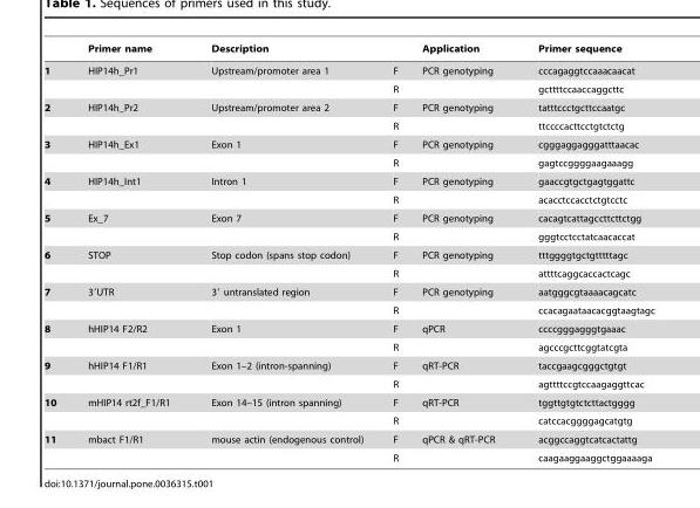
<table><thead><tr><td></td><td>Primer name</td><td>Description</td><td></td><td>Application</td><td>Primer sequence</td></tr></thead><tbody><tr><td rowspan="2">1</td><td>HIP14h_Pr1</td><td>Upstream/promoter area 1</td><td>F</td><td>PCR genotyping</td><td>cccagaggtccaaacaacat</td></tr><tr><td></td><td></td><td>R</td><td></td><td>gcttttccaaccaggcttc</td></tr><tr><td rowspan="2">2</td><td>HIP14h_Pr2</td><td>Upstream/promoter area 2</td><td>F</td><td>PCR genotyping</td><td>tatttccctgcttccaatgc</td></tr><tr><td></td><td></td><td>R</td><td></td><td>ttccccacttcctgtctctg</td></tr><tr><td rowspan="2">3</td><td>HIP14h_Ex1</td><td>Exon 1</td><td>F</td><td>PCR genotyping</td><td>cgggaggagggatttaacac</td></tr><tr><td></td><td></td><td>R</td><td></td><td>gagtccggggaagaaagg</td></tr><tr><td rowspan="2">4</td><td>HIP14h_Int1</td><td>Intron 1</td><td>F</td><td>PCR genotyping</td><td>gaaccgtgctgagtggattc</td></tr><tr><td></td><td></td><td>R</td><td></td><td>acacctccacctctgtcctc</td></tr><tr><td rowspan="2">5</td><td>Ex_7</td><td>Exon 7</td><td>F</td><td>PCR genotyping</td><td>cacagtcattagccttcttctgg</td></tr><tr><td></td><td></td><td>R</td><td></td><td>gggtcctcctatcaacaccat</td></tr><tr><td rowspan="2">6</td><td>STOP</td><td>Stop codon (spans stop codon)</td><td>F</td><td>PCR genotyping</td><td>tttggggtgctgtttttagc</td></tr><tr><td></td><td></td><td>R</td><td></td><td>attttcaggcaccactcagc</td></tr><tr><td rowspan="2">7</td><td>3′UTR</td><td>3′ untranslated region</td><td>F</td><td>PCR genotyping</td><td>aatgggcgtaaaacagcatc</td></tr><tr><td></td><td></td><td>R</td><td></td><td>ccacagaataacacggtaagtagc</td></tr><tr><td rowspan="2">8</td><td>hHIP14 F2/R2</td><td>Exon 1</td><td>F</td><td>qPCR</td><td>ccccgggagggtgaaac</td></tr><tr><td></td><td></td><td>R</td><td></td><td>agcccgcttcggtatcgta</td></tr><tr><td rowspan="2">9</td><td>hHIP14 F1/R1</td><td>Exon 1–2 (intron-spanning)</td><td>F</td><td>qRT-PCR</td><td>taccgaagcgggctgtgt</td></tr><tr><td></td><td></td><td>R</td><td></td><td>agttttccgtccaagaggttcac</td></tr><tr><td rowspan="2">10</td><td>mHIP14 rt2f_F1/R1</td><td>Exon 14–15 (intron spanning)</td><td>F</td><td>qRT-PCR</td><td>tggttgtgtctcttactgggg</td></tr><tr><td></td><td></td><td>R</td><td></td><td>catccacggggagcatgtg</td></tr><tr><td rowspan="2">11</td><td>mbact F1/R1</td><td>mouse actin (endogenous control)</td><td>F</td><td>qPCR &amp; qRT-PCR</td><td>acggccaggtcatcactattg</td></tr><tr><td></td><td></td><td>R</td><td></td><td>caagaaggaaggctggaaaaga</td></tr></tbody></table>